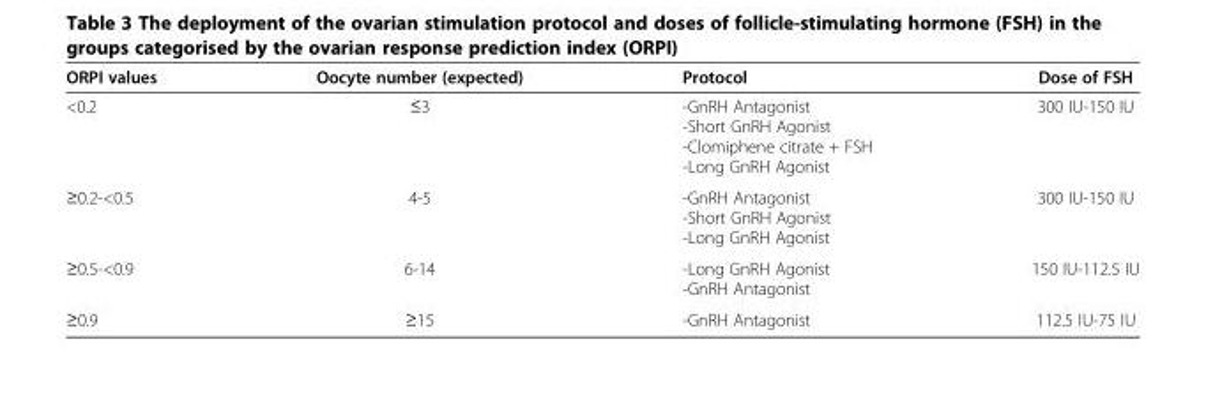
<table><thead><tr><td>ORPI values</td><td>Oocyte number (expected)</td><td>Protocol</td><td>Dose of FSH</td></tr></thead><tbody><tr><td>&lt;0.2</td><td>≤3</td><td>-GnRH Antagonist -Short GnRH Agonist -Clomiphene citrate + FSH -Long GnRH Agonist</td><td>300 IU-150 IU</td></tr><tr><td>≥0.2-&lt;0.5</td><td>4-5</td><td>-GnRH Antagonist -Short GnRH Agonist -Long GnRH Agonist</td><td>300 IU-150 IU</td></tr><tr><td>≥0.5-&lt;0.9</td><td>6-14</td><td>-Long GnRH Agonist -GnRH Antagonist</td><td>150 IU-112.5 IU</td></tr><tr><td>≥0.9</td><td>≥15</td><td>-GnRH Antagonist</td><td>112.5 IU-75 IU</td></tr></tbody></table>